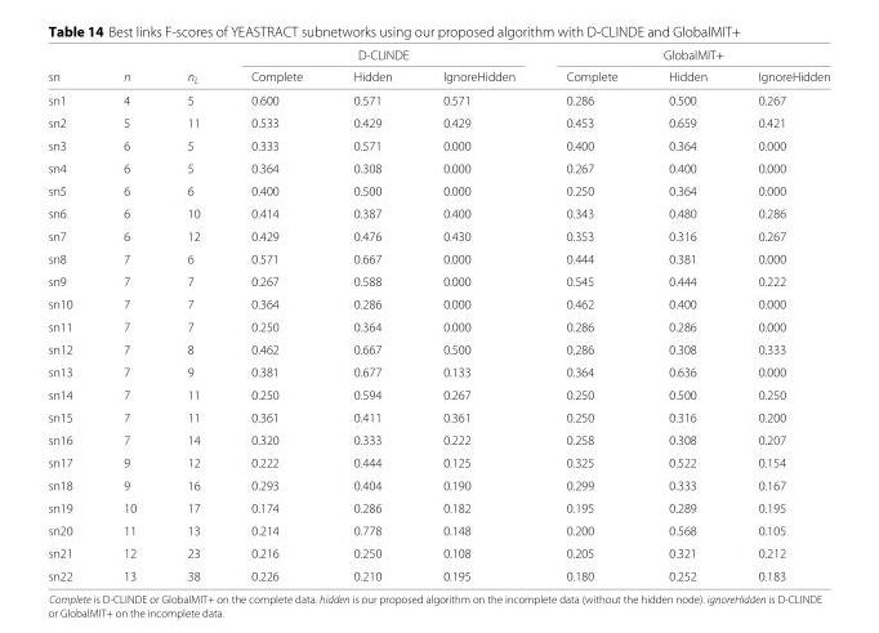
<table><thead><tr><td rowspan="2">sn</td><td rowspan="2">n</td><td rowspan="2">n<sub>L</sub></td><td colspan="3">D-CLINDE</td><td colspan="3">GlobalMIT+</td></tr><tr><td>Complete</td><td>Hidden</td><td>IgnoreHidden</td><td>Complete</td><td>Hidden</td><td>IgnoreHidden</td></tr></thead><tbody><tr><td>sn1</td><td>4</td><td>5</td><td>0.600</td><td>0.571</td><td>0.571</td><td>0.286</td><td>0.500</td><td>0.267</td></tr><tr><td>sn2</td><td>5</td><td>11</td><td>0.533</td><td>0.429</td><td>0.429</td><td>0.453</td><td>0.659</td><td>0.421</td></tr><tr><td>sn3</td><td>6</td><td>5</td><td>0.333</td><td>0.571</td><td>0.000</td><td>0.400</td><td>0.364</td><td>0.000</td></tr><tr><td>sn4</td><td>6</td><td>5</td><td>0.364</td><td>0.308</td><td>0.000</td><td>0.267</td><td>0.400</td><td>0.000</td></tr><tr><td>sn5</td><td>6</td><td>6</td><td>0.400</td><td>0.500</td><td>0.000</td><td>0.250</td><td>0.364</td><td>0.000</td></tr><tr><td>sn6</td><td>6</td><td>10</td><td>0.414</td><td>0.387</td><td>0.400</td><td>0.343</td><td>0.480</td><td>0.286</td></tr><tr><td>sn7</td><td>6</td><td>12</td><td>0.429</td><td>0.476</td><td>0.430</td><td>0.353</td><td>0.316</td><td>0.267</td></tr><tr><td>sn8</td><td>7</td><td>6</td><td>0.571</td><td>0.667</td><td>0.000</td><td>0.444</td><td>0.381</td><td>0.000</td></tr><tr><td>sn9</td><td>7</td><td>7</td><td>0.267</td><td>0.588</td><td>0.000</td><td>0.545</td><td>0.444</td><td>0.222</td></tr><tr><td>sn10</td><td>7</td><td>7</td><td>0.364</td><td>0.286</td><td>0.000</td><td>0.462</td><td>0.400</td><td>0.000</td></tr><tr><td>sn11</td><td>7</td><td>7</td><td>0.250</td><td>0.364</td><td>0.000</td><td>0.286</td><td>0.286</td><td>0.000</td></tr><tr><td>sn12</td><td>7</td><td>8</td><td>0.462</td><td>0.667</td><td>0.500</td><td>0.286</td><td>0.308</td><td>0.333</td></tr><tr><td>sn13</td><td>7</td><td>9</td><td>0.381</td><td>0.677</td><td>0.133</td><td>0.364</td><td>0.636</td><td>0.000</td></tr><tr><td>sn14</td><td>7</td><td>11</td><td>0.250</td><td>0.594</td><td>0.267</td><td>0.250</td><td>0.500</td><td>0.250</td></tr><tr><td>sn15</td><td>7</td><td>11</td><td>0.361</td><td>0.411</td><td>0.361</td><td>0.250</td><td>0.316</td><td>0.200</td></tr><tr><td>sn16</td><td>7</td><td>14</td><td>0.320</td><td>0.333</td><td>0.222</td><td>0.258</td><td>0.308</td><td>0.207</td></tr><tr><td>sn17</td><td>9</td><td>12</td><td>0.222</td><td>0.444</td><td>0.125</td><td>0.325</td><td>0.522</td><td>0.154</td></tr><tr><td>sn18</td><td>9</td><td>16</td><td>0.293</td><td>0.404</td><td>0.190</td><td>0.299</td><td>0.333</td><td>0.167</td></tr><tr><td>sn19</td><td>10</td><td>17</td><td>0.174</td><td>0.286</td><td>0.182</td><td>0.195</td><td>0.289</td><td>0.195</td></tr><tr><td>sn20</td><td>11</td><td>13</td><td>0.214</td><td>0.778</td><td>0.148</td><td>0.200</td><td>0.568</td><td>0.105</td></tr><tr><td>sn21</td><td>12</td><td>23</td><td>0.216</td><td>0.250</td><td>0.108</td><td>0.205</td><td>0.321</td><td>0.212</td></tr><tr><td>sn22</td><td>13</td><td>38</td><td>0.226</td><td>0.210</td><td>0.195</td><td>0.180</td><td>0.252</td><td>0.183</td></tr></tbody></table>